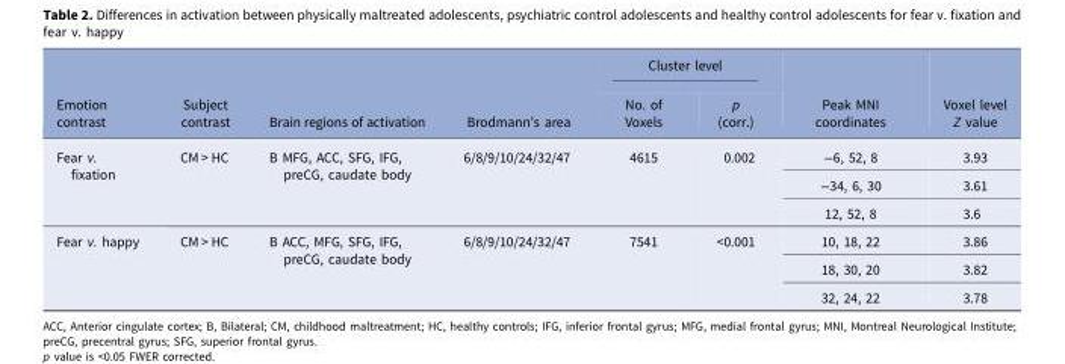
<table><thead><tr><td rowspan="2">Emotion contrast</td><td rowspan="2">Subject contrast</td><td rowspan="2">Brain regions of activation</td><td rowspan="2">Brodmann’s area</td><td colspan="2">Cluster level</td><td rowspan="2">Peak MNI coordinates</td><td rowspan="2">Voxel level Z value</td></tr><tr><td>No. of Voxels</td><td>p (corr.)</td></tr></thead><tbody><tr><td rowspan="3">Fear v. fixation</td><td rowspan="3">CM &gt; HC</td><td rowspan="3">B MFG, ACC, SFG, IFG, preCG, caudate body</td><td rowspan="3">6/8/9/10/24/32/47</td><td rowspan="3">4615</td><td rowspan="3">0.002</td><td>−6, 52, 8</td><td>3.93</td></tr><tr><td>−34, 6, 30</td><td>3.61</td></tr><tr><td>12, 52, 8</td><td>3.6</td></tr><tr><td rowspan="3">Fear v. happy</td><td rowspan="3">CM &gt; HC</td><td rowspan="3">B ACC, MFG, SFG, IFG, preCG, caudate body</td><td rowspan="3">6/8/9/10/24/32/47</td><td rowspan="3">7541</td><td rowspan="3">&lt;0.001</td><td>10, 18, 22</td><td>3.86</td></tr><tr><td>18, 30, 20</td><td>3.82</td></tr><tr><td>32, 24, 22</td><td>3.78</td></tr></tbody></table>